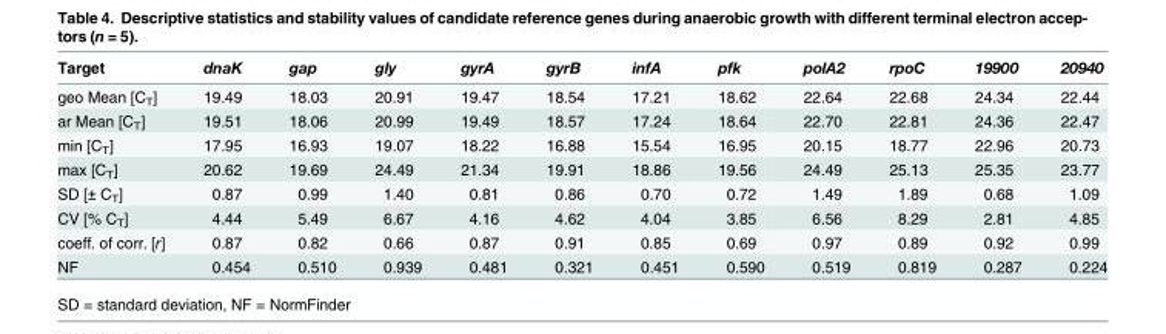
<table><thead><tr><td>Target</td><td>dnaK</td><td>gap</td><td>gly</td><td>gyrA</td><td>gyrB</td><td>infA</td><td>pfk</td><td>polA2</td><td>rpoC</td><td>19900</td><td>20940</td></tr></thead><tbody><tr><td>geo Mean [C<sub>T</sub>]</td><td>19.49</td><td>18.03</td><td>20.91</td><td>19.47</td><td>18.54</td><td>17.21</td><td>18.62</td><td>22.64</td><td>22.68</td><td>24.34</td><td>22.44</td></tr><tr><td>ar Mean [C<sub>T</sub>]</td><td>19.51</td><td>18.06</td><td>20.99</td><td>19.49</td><td>18.57</td><td>17.24</td><td>18.64</td><td>22.70</td><td>22.81</td><td>24.36</td><td>22.47</td></tr><tr><td>min [C<sub>T</sub>]</td><td>17.95</td><td>16.93</td><td>19.07</td><td>18.22</td><td>16.88</td><td>15.54</td><td>16.95</td><td>20.15</td><td>18.77</td><td>22.96</td><td>20.73</td></tr><tr><td>max [C<sub>T</sub>]</td><td>20.62</td><td>19.69</td><td>24.49</td><td>21.34</td><td>19.91</td><td>18.86</td><td>19.56</td><td>24.49</td><td>25.13</td><td>25.35</td><td>23.77</td></tr><tr><td>SD [± C<sub>T</sub>]</td><td>0.87</td><td>0.99</td><td>1.40</td><td>0.81</td><td>0.86</td><td>0.70</td><td>0.72</td><td>1.49</td><td>1.89</td><td>0.68</td><td>1.09</td></tr><tr><td>CV [% C<sub>T</sub>]</td><td>4.44</td><td>5.49</td><td>6.67</td><td>4.16</td><td>4.62</td><td>4.04</td><td>3.85</td><td>6.56</td><td>8.29</td><td>2.81</td><td>4.85</td></tr><tr><td>coeff. of corr. [r]</td><td>0.87</td><td>0.82</td><td>0.66</td><td>0.87</td><td>0.91</td><td>0.85</td><td>0.69</td><td>0.97</td><td>0.89</td><td>0.92</td><td>0.99</td></tr><tr><td>NF</td><td>0.454</td><td>0.510</td><td>0.939</td><td>0.481</td><td>0.321</td><td>0.451</td><td>0.590</td><td>0.519</td><td>0.819</td><td>0.287</td><td>0.224</td></tr></tbody></table>